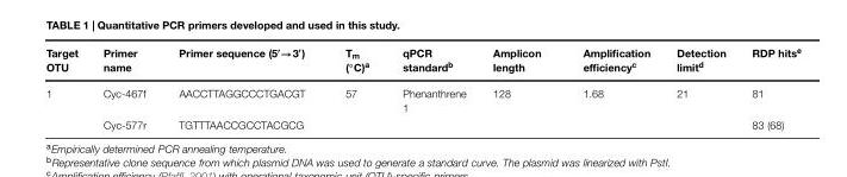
<table><thead><tr><td>Target OTU</td><td>Primer name</td><td>Primer sequence (5′→3′)</td><td>Tm (◦C)a</td><td>qPCR standard<sup>b</sup></td><td>Amplicon length</td><td>Amplification efficiency<sup>c</sup></td><td>Detection limit<sup>d</sup></td><td>RDP hits<sup>e</sup></td></tr></thead><tbody><tr><td rowspan="2">1</td><td>Cyc-467f</td><td>AACCTTAGGCCCTGACGT</td><td>57</td><td>Phenanthrene 1</td><td>128</td><td>1.68</td><td>21</td><td>81</td></tr><tr><td>Cyc-577r</td><td>TGTTTAACCGCCTACGCG</td><td></td><td></td><td></td><td></td><td></td><td>83 (68)</td></tr></tbody></table>